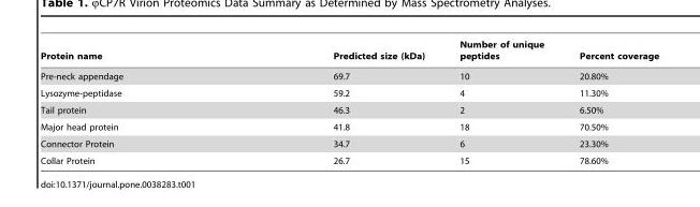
<table><thead><tr><td>Protein name</td><td>Predicted size (kDa)</td><td>Number of unique peptides</td><td>Percent coverage</td></tr></thead><tbody><tr><td>Pre-neck appendage</td><td>69.7</td><td>10</td><td>20.80%</td></tr><tr><td>Lysozyme-peptidase</td><td>59.2</td><td>4</td><td>11.30%</td></tr><tr><td>Tail protein</td><td>46.3</td><td>2</td><td>6.50%</td></tr><tr><td>Major head protein</td><td>41.8</td><td>18</td><td>70.50%</td></tr><tr><td>Connector Protein</td><td>34.7</td><td>6</td><td>23.30%</td></tr><tr><td>Collar Protein</td><td>26.7</td><td>15</td><td>78.60%</td></tr></tbody></table>